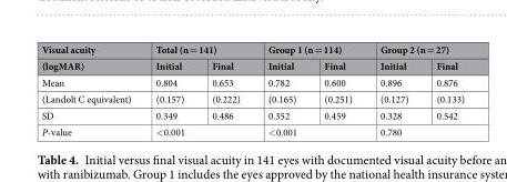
<table><thead><tr><td rowspan="2">Visual acuity (logMAR)</td><td colspan="2">Total (n = 141)</td><td colspan="2">Group 1 (n = 114)</td><td colspan="2">Group 2 (n = 27)</td></tr><tr><td>Initial</td><td>Final</td><td>Initial</td><td>Final</td><td>Initial</td><td>Final</td></tr></thead><tbody><tr><td>Mean</td><td>0.804</td><td>0.653</td><td>0.782</td><td>0.600</td><td>0.896</td><td>0.876</td></tr><tr><td>(Landolt C equivalent)</td><td>(0.157)</td><td>(0.222)</td><td>(0.165)</td><td>(0.251)</td><td>(0.127)</td><td>(0.133)</td></tr><tr><td>SD</td><td>0.349</td><td>0.486</td><td>0.352</td><td>0.459</td><td>0.328</td><td>0.542</td></tr><tr><td>P-value</td><td colspan="2">&lt;0.001</td><td colspan="2">&lt;0.001</td><td colspan="2">0.780</td></tr></tbody></table>